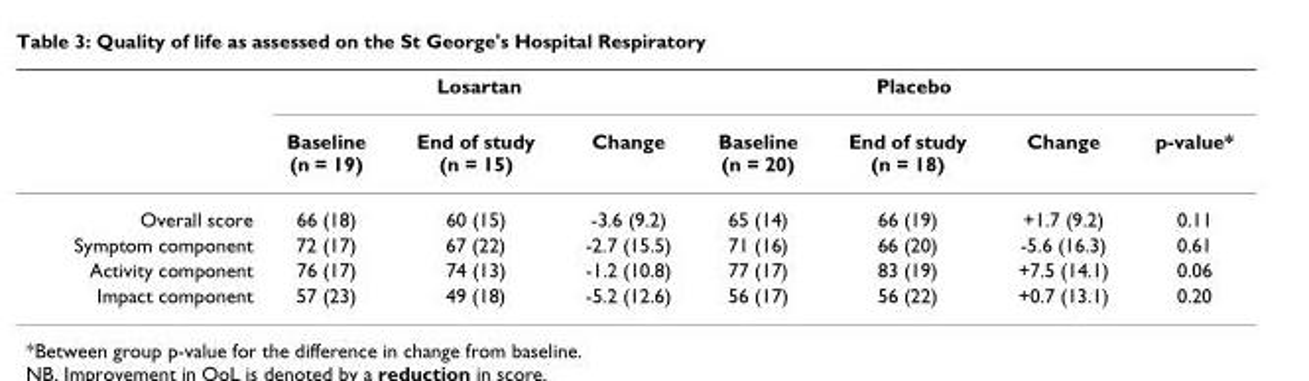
<table><thead><tr><td rowspan="2"></td><td colspan="3">Losartan</td><td colspan="3">Placebo</td><td rowspan="2">p-value*</td></tr><tr><td>Baseline (n = 19)</td><td>End of study (n = 15)</td><td>Change</td><td>Baseline (n = 20)</td><td>End of study (n = 18)</td><td>Change</td></tr></thead><tbody><tr><td>Overall score</td><td>66 (18)</td><td>60 (15)</td><td>-3.6 (9.2)</td><td>65 (14)</td><td>66 (19)</td><td>+1.7 (9.2)</td><td>0.11</td></tr><tr><td>Symptom component</td><td>72 (17)</td><td>67 (22)</td><td>-2.7 (15.5)</td><td>71 (16)</td><td>66 (20)</td><td>-5.6 (16.3)</td><td>0.61</td></tr><tr><td>Activity component</td><td>76 (17)</td><td>74 (13)</td><td>-1.2 (10.8)</td><td>77 (17)</td><td>83 (19)</td><td>+7.5 (14.1)</td><td>0.06</td></tr><tr><td>Impact component</td><td>57 (23)</td><td>49 (18)</td><td>-5.2 (12.6)</td><td>56 (17)</td><td>56 (22)</td><td>+0.7 (13.1)</td><td>0.20</td></tr></tbody></table>